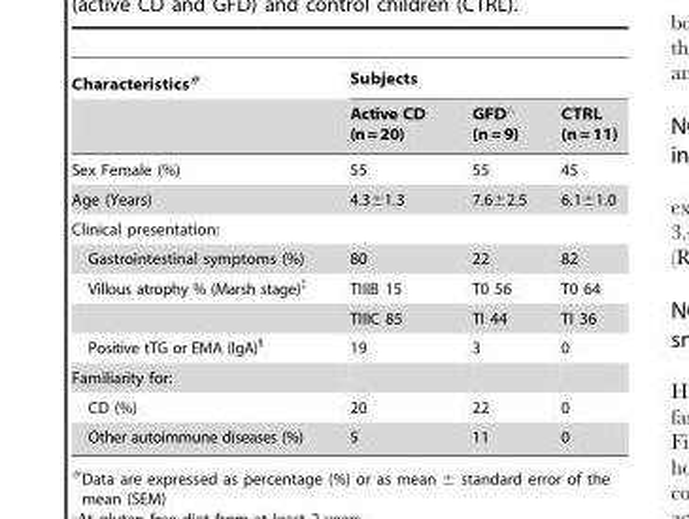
<table><thead><tr><td rowspan="2">Characteristics#</td><td colspan="3">Subjects</td></tr><tr><td>Active CD (n=20)</td><td>GFD‘ (n = 9)</td><td>CTRL (n = 11)</td></tr></thead><tbody><tr><td>Sex Female (%)</td><td>55</td><td>55</td><td>45</td></tr><tr><td>Age (Years)</td><td>4.3±1.3</td><td>7.6±2.5</td><td>6.1±1.0</td></tr><tr><td colspan="4">Clinical presentation:</td></tr><tr><td>Gastrointestinal symptoms (%)</td><td>80</td><td>22</td><td>82</td></tr><tr><td rowspan="2">Villous atrophy % (Marsh stage)‡</td><td>TIIIB 15</td><td>T0 56</td><td>T0 64</td></tr><tr><td>TIIIC 85</td><td>TI 44</td><td>TI 36</td></tr><tr><td>Positive tTG or EMA (IgA)§</td><td>19</td><td>3</td><td>0</td></tr><tr><td colspan="4">Familiarity for:</td></tr><tr><td>CD (%)</td><td>20</td><td>22</td><td>0</td></tr><tr><td>Other autoimmune diseases (%)</td><td>5</td><td>11</td><td>0</td></tr></tbody></table>